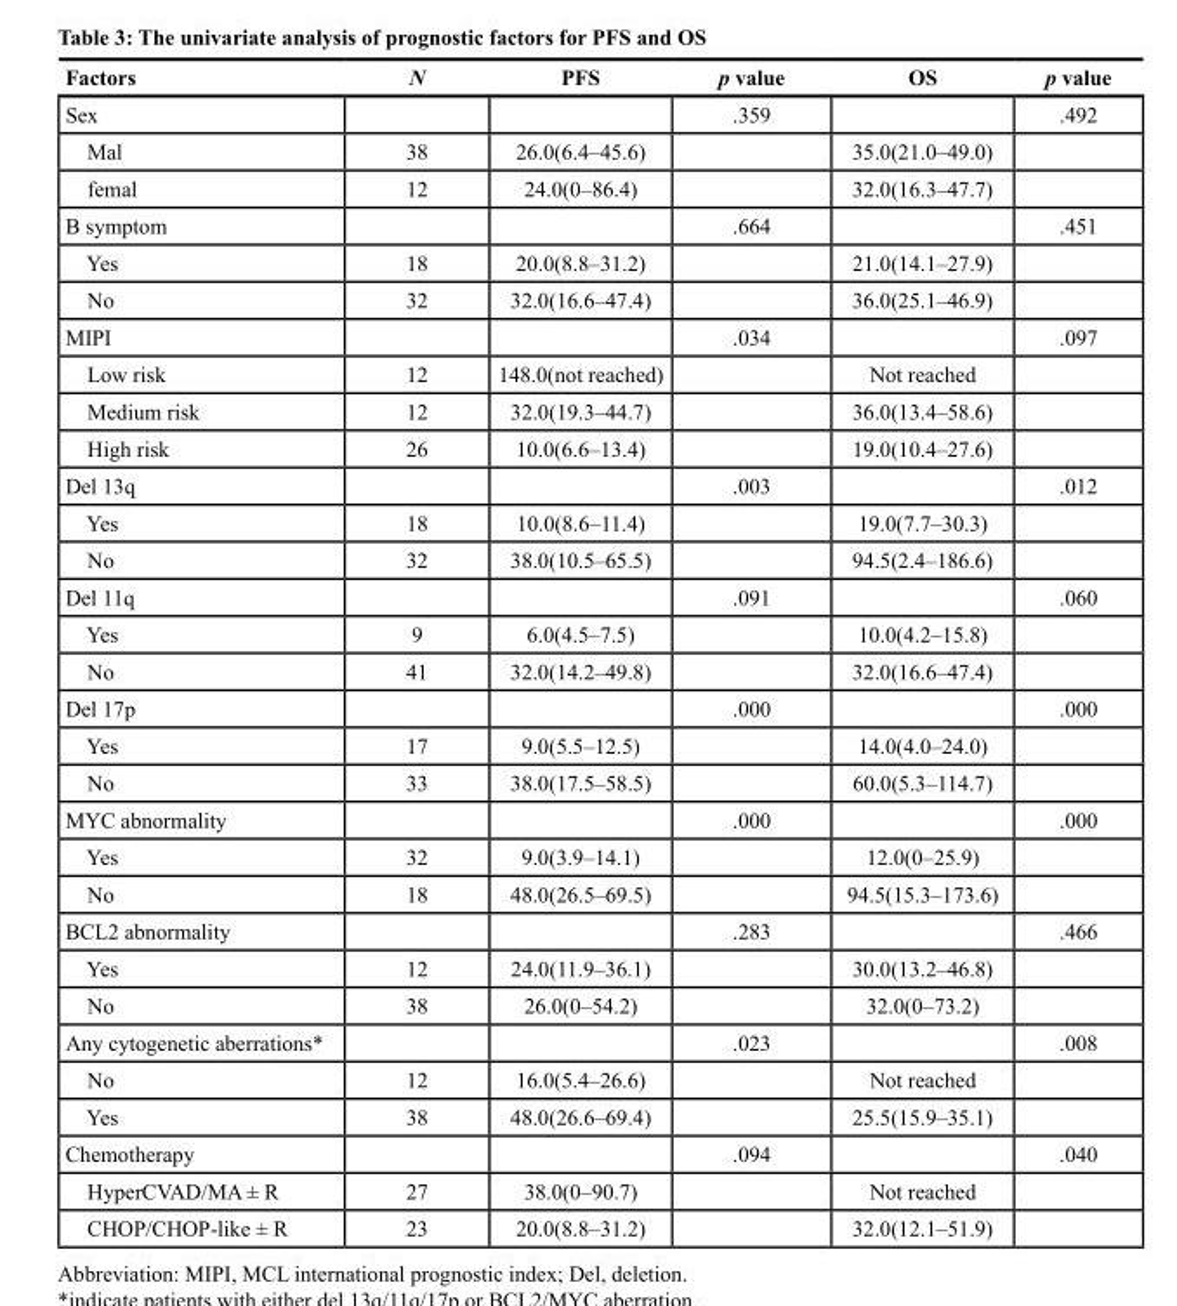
<table><thead><tr><td>Factors</td><td>N</td><td>PFS</td><td>p value</td><td>OS</td><td>p value</td></tr></thead><tbody><tr><td>Sex</td><td></td><td></td><td>.359</td><td></td><td>.492</td></tr><tr><td>Mal</td><td>38</td><td>26.0(6.4–45.6)</td><td></td><td>35.0(21.0–49.0)</td><td></td></tr><tr><td>femal</td><td>12</td><td>24.0(0–86.4)</td><td></td><td>32.0(16.3–47.7)</td><td></td></tr><tr><td>B symptom</td><td></td><td></td><td>.664</td><td></td><td>.451</td></tr><tr><td>Yes</td><td>18</td><td>20.0(8.8–31.2)</td><td></td><td>21.0(14.1–27.9)</td><td></td></tr><tr><td>No</td><td>32</td><td>32.0(16.6–47.4)</td><td></td><td>36.0(25.1–46.9)</td><td></td></tr><tr><td>MIPI</td><td></td><td></td><td>.034</td><td></td><td>.097</td></tr><tr><td>Low risk</td><td>12</td><td>148.0(not reached)</td><td></td><td>Not reached</td><td></td></tr><tr><td>Medium risk</td><td>12</td><td>32.0(19.3–44.7)</td><td></td><td>36.0(13.4–58.6)</td><td></td></tr><tr><td>High risk</td><td>26</td><td>10.0(6.6–13.4)</td><td></td><td>19.0(10.4–27.6)</td><td></td></tr><tr><td>Del 13q</td><td></td><td></td><td>.003</td><td></td><td>.012</td></tr><tr><td>Yes</td><td>18</td><td>10.0(8.6–11.4)</td><td></td><td>19.0(7.7–30.3)</td><td></td></tr><tr><td>No</td><td>32</td><td>38.0(10.5–65.5)</td><td></td><td>94.5(2.4–186.6)</td><td></td></tr><tr><td>Del 11q</td><td></td><td></td><td>.091</td><td></td><td>.060</td></tr><tr><td>Yes</td><td>9</td><td>6.0(4.5–7.5)</td><td></td><td>10.0(4.2–15.8)</td><td></td></tr><tr><td>No</td><td>41</td><td>32.0(14.2–49.8)</td><td></td><td>32.0(16.6–47.4)</td><td></td></tr><tr><td>Del 17p</td><td></td><td></td><td>.000</td><td></td><td>.000</td></tr><tr><td>Yes</td><td>17</td><td>9.0(5.5–12.5)</td><td></td><td>14.0(4.0–24.0)</td><td></td></tr><tr><td>No</td><td>33</td><td>38.0(17.5–58.5)</td><td></td><td>60.0(5.3–114.7)</td><td></td></tr><tr><td>MYC abnormality</td><td></td><td></td><td>.000</td><td></td><td>.000</td></tr><tr><td>Yes</td><td>32</td><td>9.0(3.9–14.1)</td><td></td><td>12.0(0–25.9)</td><td></td></tr><tr><td>No</td><td>18</td><td>48.0(26.5–69.5)</td><td></td><td>94.5(15.3–173.6)</td><td></td></tr><tr><td>BCL2 abnormality</td><td></td><td></td><td>.283</td><td></td><td>.466</td></tr><tr><td>Yes</td><td>12</td><td>24.0(11.9–36.1)</td><td></td><td>30.0(13.2–46.8)</td><td></td></tr><tr><td>No</td><td>38</td><td>26.0(0–54.2)</td><td></td><td>32.0(0–73.2)</td><td></td></tr><tr><td>Any cytogenetic aberrations*</td><td></td><td></td><td>.023</td><td></td><td>.008</td></tr><tr><td>No</td><td>12</td><td>16.0(5.4–26.6)</td><td></td><td>Not reached</td><td></td></tr><tr><td>Yes</td><td>38</td><td>48.0(26.6–69.4)</td><td></td><td>25.5(15.9–35.1)</td><td></td></tr><tr><td>Chemotherapy</td><td></td><td></td><td>.094</td><td></td><td>.040</td></tr><tr><td>HyperCVAD/MA ± R</td><td>27</td><td>38.0(0–90.7)</td><td></td><td>Not reached</td><td></td></tr><tr><td>CHOP/CHOP-like ± R</td><td>23</td><td>20.0(8.8–31.2)</td><td></td><td>32.0(12.1–51.9)</td><td></td></tr></tbody></table>